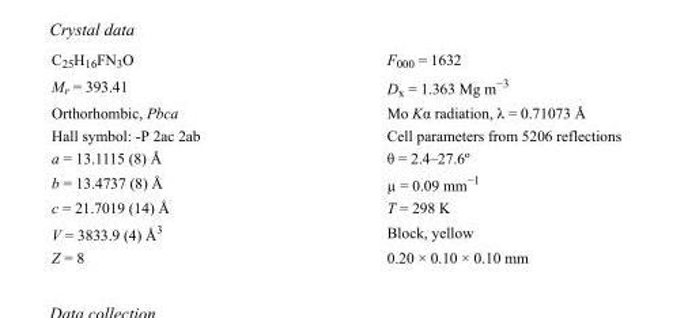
<table><tbody><tr><td>C<sub>25</sub>H<sub>16</sub>FN<sub>3</sub>O</td><td>F000 = 1632</td></tr><tr><td>M<sub>r</sub> = 393.41</td><td>D<sub>x</sub> = 1.363 Mg m<sup>−3</sup></td></tr><tr><td>Orthorhombic, Pbca</td><td>Mo Kα radiation, λ = 0.71073 Å</td></tr><tr><td>Hall symbol: -P 2ac 2ab</td><td>Cell parameters from 5206 reflections</td></tr><tr><td>a = 13.1115 (8) Å</td><td>θ = 2.4–27.6º</td></tr><tr><td>b = 13.4737 (8) Å</td><td>µ = 0.09 mm<sup>−1</sup></td></tr><tr><td>c = 21.7019 (14) Å</td><td>T = 298 K</td></tr><tr><td>V = 3833.9 (4) Å<sup>3</sup></td><td>Block, yellow</td></tr><tr><td>Z = 8</td><td>0.20 × 0.10 × 0.10 mm</td></tr></tbody></table>